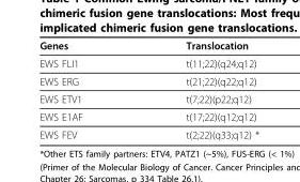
<table><thead><tr><td>Genes</td><td>Translocation</td></tr></thead><tbody><tr><td>EWS FLI1</td><td>t(11;22)(q24;q12)</td></tr><tr><td>EWS ERG</td><td>t(21;22)(q22;q12)</td></tr><tr><td>EWS ETV1</td><td>t(7;22)(p22;q12)</td></tr><tr><td>EWS E1AF</td><td>t(17;22)(q12;q12)</td></tr><tr><td>EWS FEV</td><td>t(2;22)(q33;q12) *</td></tr></tbody></table>